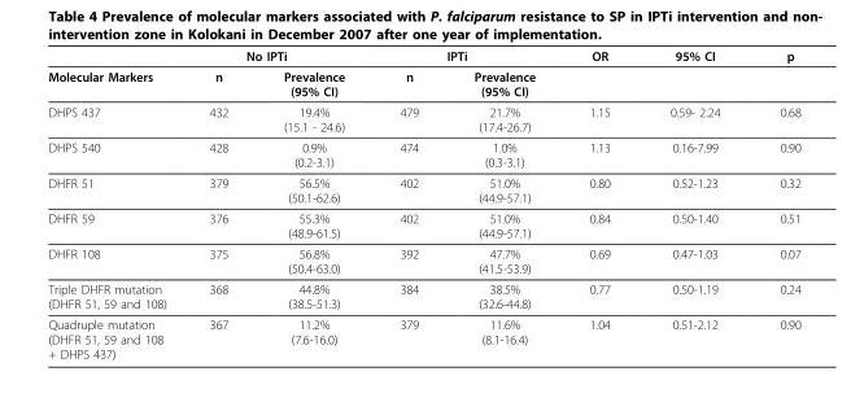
<table><thead><tr><td rowspan="2">Molecular Markers</td><td colspan="2">No IPTi</td><td colspan="2">IPTi</td><td rowspan="2">OR</td><td rowspan="2">95% CI</td><td rowspan="2">p</td></tr><tr><td>n</td><td>Prevalence (95% CI)</td><td>n</td><td>Prevalence (95% CI)</td></tr></thead><tbody><tr><td>DHPS 437</td><td>432</td><td>19.4% (15.1 - 24.6)</td><td>479</td><td>21.7% (17.4-26.7)</td><td>1.15</td><td>0.59- 2.24</td><td>0.68</td></tr><tr><td>DHPS 540</td><td>428</td><td>0.9% (0.2-3.1)</td><td>474</td><td>1.0% (0.3-3.1)</td><td>1.13</td><td>0.16-7.99</td><td>0.90</td></tr><tr><td>DHFR 51</td><td>379</td><td>56.5% (50.1-62.6)</td><td>402</td><td>51.0% (44.9-57.1)</td><td>0.80</td><td>0.52-1.23</td><td>0.32</td></tr><tr><td>DHFR 59</td><td>376</td><td>55.3% (48.9-61.5)</td><td>402</td><td>51.0% (44.9-57.1)</td><td>0.84</td><td>0.50-1.40</td><td>0.51</td></tr><tr><td>DHFR 108</td><td>375</td><td>56.8% (50.4-63.0)</td><td>392</td><td>47.7% (41.5-53.9)</td><td>0.69</td><td>0.47-1.03</td><td>0.07</td></tr><tr><td>Triple DHFR mutation (DHFR 51, 59 and 108)</td><td>368</td><td>44.8% (38.5-51.3)</td><td>384</td><td>38.5% (32.6-44.8)</td><td>0.77</td><td>0.50-1.19</td><td>0.24</td></tr><tr><td>Quadruple mutation (DHFR 51, 59 and 108 + DHPS 437)</td><td>367</td><td>11.2% (7.6-16.0)</td><td>379</td><td>11.6% (8.1-16.4)</td><td>1.04</td><td>0.51-2.12</td><td>0.90</td></tr></tbody></table>